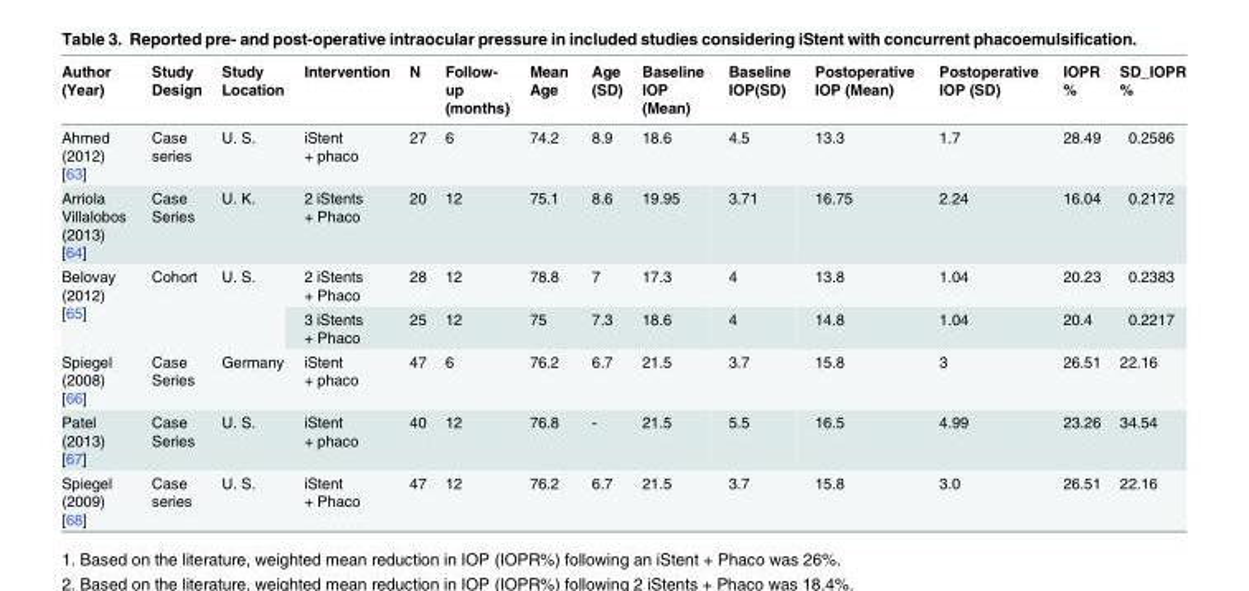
<table><thead><tr><td>Author (Year)</td><td>Study Design</td><td>Study Location</td><td>Intervention</td><td>N</td><td>Follow- up (months)</td><td>Mean Age</td><td>Age (SD)</td><td>Baseline IOP (Mean)</td><td>Baseline IOP(SD)</td><td>Postoperative IOP (Mean)</td><td>Postoperative IOP (SD)</td><td>IOPR %</td><td>SD_IOPR %</td></tr></thead><tbody><tr><td>Ahmed (2012) [63]</td><td>Case series</td><td>U. S.</td><td>iStent + phaco</td><td>27</td><td>6</td><td>74.2</td><td>8.9</td><td>18.6</td><td>4.5</td><td>13.3</td><td>1.7</td><td>28.49</td><td>0.2586</td></tr><tr><td>Arriola Villalobos (2013) [64]</td><td>Case Series</td><td>U. K.</td><td>2 iStents + Phaco</td><td>20</td><td>12</td><td>75.1</td><td>8.6</td><td>19.95</td><td>3.71</td><td>16.75</td><td>2.24</td><td>16.04</td><td>0.2172</td></tr><tr><td rowspan="2">Belovay (2012) [65]</td><td rowspan="2">Cohort</td><td rowspan="2">U. S.</td><td>2 iStents + Phaco</td><td>28</td><td>12</td><td>78.8</td><td>7</td><td>17.3</td><td>4</td><td>13.8</td><td>1.04</td><td>20.23</td><td>0.2383</td></tr><tr><td>3 iStents + Phaco</td><td>25</td><td>12</td><td>75</td><td>7.3</td><td>18.6</td><td>4</td><td>14.8</td><td>1.04</td><td>20.4</td><td>0.2217</td></tr><tr><td>Spiegel (2008) [66]</td><td>Case Series</td><td>Germany</td><td>iStent + phaco</td><td>47</td><td>6</td><td>76.2</td><td>6.7</td><td>21.5</td><td>3.7</td><td>15.8</td><td>3</td><td>26.51</td><td>22.16</td></tr><tr><td>Patel (2013) [67]</td><td>Case Series</td><td>U. S.</td><td>iStent + phaco</td><td>40</td><td>12</td><td>76.8</td><td>-</td><td>21.5</td><td>5.5</td><td>16.5</td><td>4.99</td><td>23.26</td><td>34.54</td></tr><tr><td>Spiegel (2009) [68]</td><td>Case series</td><td>U. S.</td><td>iStent + Phaco</td><td>47</td><td>12</td><td>76.2</td><td>6.7</td><td>21.5</td><td>3.7</td><td>15.8</td><td>3.0</td><td>26.51</td><td>22.16</td></tr></tbody></table>